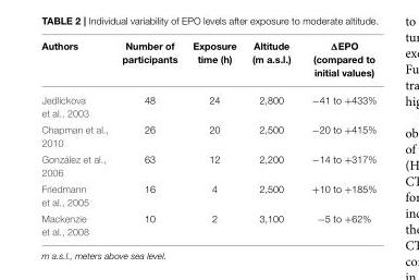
<table><thead><tr><td>Authors</td><td>Number of participants</td><td>Exposure time (h)</td><td>Altitude (m a.s.l.)</td><td>ΔEPO (compared to initial values)</td></tr></thead><tbody><tr><td>Jedlickova et al., 2003</td><td>48</td><td>24</td><td>2,800</td><td>−41 to +433%</td></tr><tr><td>Chapman et al., 2010</td><td>26</td><td>20</td><td>2,500</td><td>−20 to +415%</td></tr><tr><td>González et al., 2006</td><td>63</td><td>12</td><td>2,200</td><td>−14 to +317%</td></tr><tr><td>Friedmann et al., 2005</td><td>16</td><td>4</td><td>2,500</td><td>+10 to +185%</td></tr><tr><td>Mackenzie et al., 2008</td><td>10</td><td>2</td><td>3,100</td><td>−5 to +62%</td></tr></tbody></table>